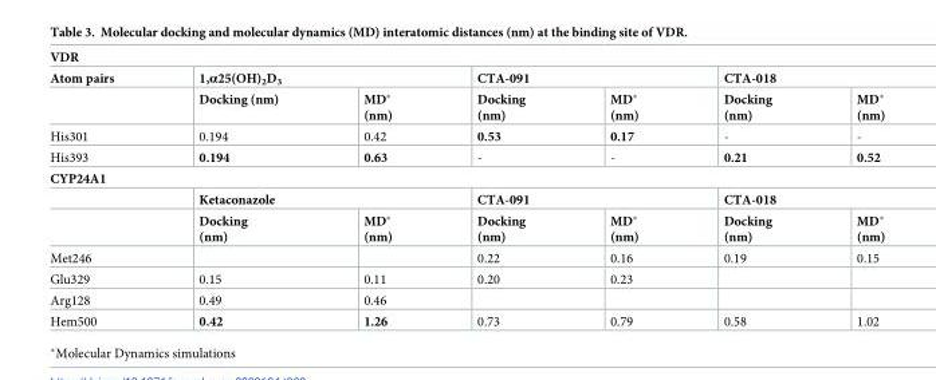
<table><tbody><tr><td colspan="7">VDR</td></tr><tr><td rowspan="2">Atom pairs</td><td colspan="2">1,α25(OH)<sub>2</sub>D<sub>3</sub></td><td colspan="2">CTA-091</td><td colspan="2">CTA-018</td></tr><tr><td>Docking (nm)</td><td>MD* (nm)</td><td>Docking (nm)</td><td>MD* (nm)</td><td>Docking (nm)</td><td>MD* (nm)</td></tr><tr><td>His301</td><td>0.194</td><td>0.42</td><td>0.53</td><td>0.17</td><td>-</td><td>-</td></tr><tr><td>His393</td><td>0.194</td><td>0.63</td><td>-</td><td>-</td><td>0.21</td><td>0.52</td></tr><tr><td colspan="7">CYP24A1</td></tr><tr><td></td><td colspan="2">Ketaconazole</td><td colspan="2">CTA-091</td><td colspan="2">CTA-018</td></tr><tr><td></td><td>Docking (nm)</td><td>MD* (nm)</td><td>Docking (nm)</td><td>MD* (nm)</td><td>Docking (nm)</td><td>MD* (nm)</td></tr><tr><td>Met246</td><td></td><td></td><td>0.22</td><td>0.16</td><td>0.19</td><td>0.15</td></tr><tr><td>Glu329</td><td>0.15</td><td>0.11</td><td>0.20</td><td>0.23</td><td></td><td></td></tr><tr><td>Arg128</td><td>0.49</td><td>0.46</td><td></td><td></td><td></td><td></td></tr><tr><td>Hem500</td><td>0.42</td><td>1.26</td><td>0.73</td><td>0.79</td><td>0.58</td><td>1.02</td></tr></tbody></table>